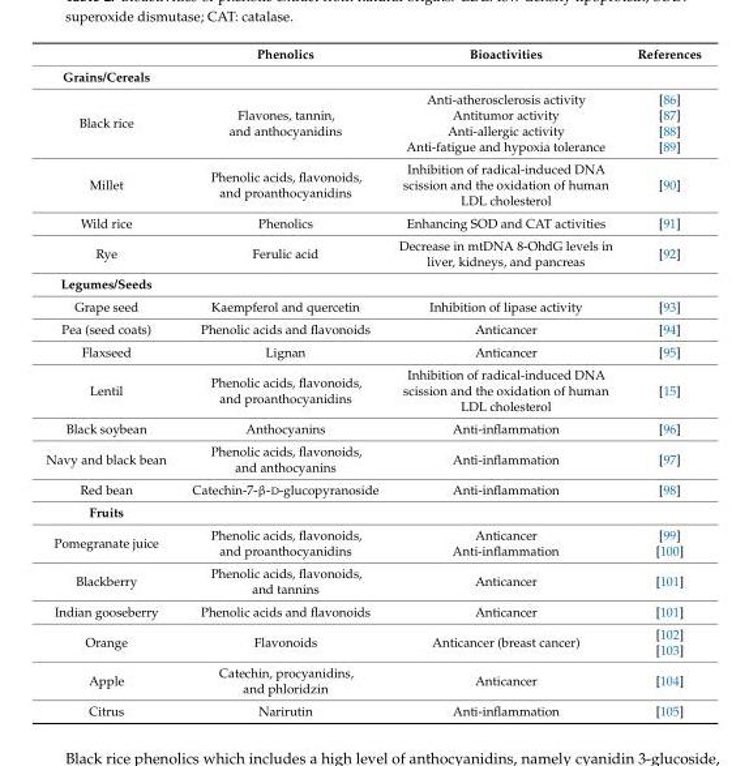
<table><thead><tr><td></td><td>Phenolics</td><td>Bioactivities</td><td>References</td></tr></thead><tbody><tr><td colspan="4">Grains/Cereals</td></tr><tr><td>Black rice</td><td>Flavones, tannin, and anthocyanidins</td><td>Anti-atherosclerosis activity Antitumor activity Anti-allergic activity Anti-fatigue and hypoxia tolerance</td><td>[86] [87] [88] [89]</td></tr><tr><td>Millet</td><td>Phenolic acids, flavonoids, and proanthocyanidins</td><td>Inhibition of radical-induced DNA scission and the oxidation of human LDL cholesterol</td><td>[90]</td></tr><tr><td>Wild rice</td><td>Phenolics</td><td>Enhancing SOD and CAT activities</td><td>[91]</td></tr><tr><td>Rye</td><td>Ferulic acid</td><td>Decrease in mtDNA 8-OhdG levels in liver, kidneys, and pancreas</td><td>[92]</td></tr><tr><td colspan="4">Legumes/Seeds</td></tr><tr><td>Grape seed</td><td>Kaempferol and quercetin</td><td>Inhibition of lipase activity</td><td>[93]</td></tr><tr><td>Pea (seed coats)</td><td>Phenolic acids and flavonoids</td><td>Anticancer</td><td>[94]</td></tr><tr><td>Flaxseed</td><td>Lignan</td><td>Anticancer</td><td>[95]</td></tr><tr><td>Lentil</td><td>Phenolic acids, flavonoids, and proanthocyanidins</td><td>Inhibition of radical-induced DNA scission and the oxidation of human LDL cholesterol</td><td>[15]</td></tr><tr><td>Black soybean</td><td>Anthocyanins</td><td>Anti-inflammation</td><td>[96]</td></tr><tr><td>Navy and black bean</td><td>Phenolic acids, flavonoids, and anthocyanins</td><td>Anti-inflammation</td><td>[97]</td></tr><tr><td>Red bean</td><td>Catechin-7-β-D-glucopyranoside</td><td>Anti-inflammation</td><td>[98]</td></tr><tr><td colspan="4">Fruits</td></tr><tr><td>Pomegranate juice</td><td>Phenolic acids, flavonoids, and proanthocyanidins</td><td>Anticancer Anti-inflammation</td><td>[99] [100]</td></tr><tr><td>Blackberry</td><td>Phenolic acids, flavonoids, and tannins</td><td>Anticancer</td><td>[101]</td></tr><tr><td>Indian gooseberry</td><td>Phenolic acids and flavonoids</td><td>Anticancer</td><td>[101]</td></tr><tr><td>Orange</td><td>Flavonoids</td><td>Anticancer (breast cancer)</td><td>[102] [103]</td></tr><tr><td>Apple</td><td>Catechin, procyanidins, and phloridzin</td><td>Anticancer</td><td>[104]</td></tr><tr><td>Citrus</td><td>Narirutin</td><td>Anti-inflammation</td><td>[105]</td></tr></tbody></table>